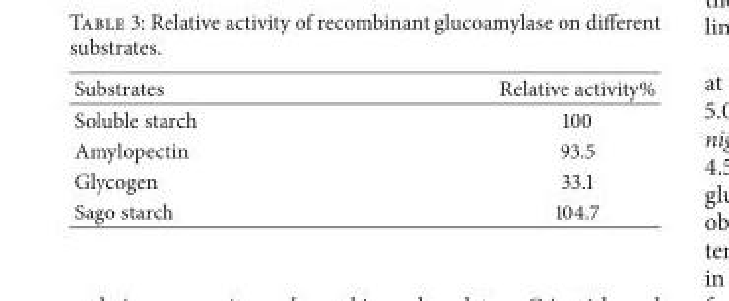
<table><thead><tr><td>Substrates</td><td>Relative activity%</td></tr></thead><tbody><tr><td>Soluble starch</td><td>100</td></tr><tr><td>Amylopectin</td><td>93.5</td></tr><tr><td>Glycogen</td><td>33.1</td></tr><tr><td>Sago starch</td><td>104.7</td></tr></tbody></table>